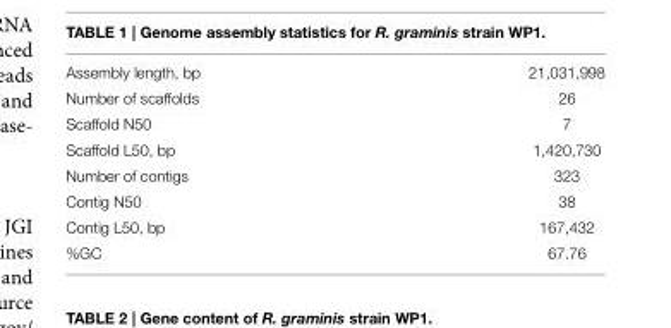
<table><tbody><tr><td>Assembly length, bp</td><td>21,031,998</td></tr><tr><td>Number of scaffolds</td><td>26</td></tr><tr><td>Scaffold N50</td><td>7</td></tr><tr><td>Scaffold L50, bp</td><td>1,420,730</td></tr><tr><td>Number of contigs</td><td>323</td></tr><tr><td>Contig N50</td><td>38</td></tr><tr><td>Contig L50, bp</td><td>167,432</td></tr><tr><td>%GC</td><td>67.76</td></tr></tbody></table>